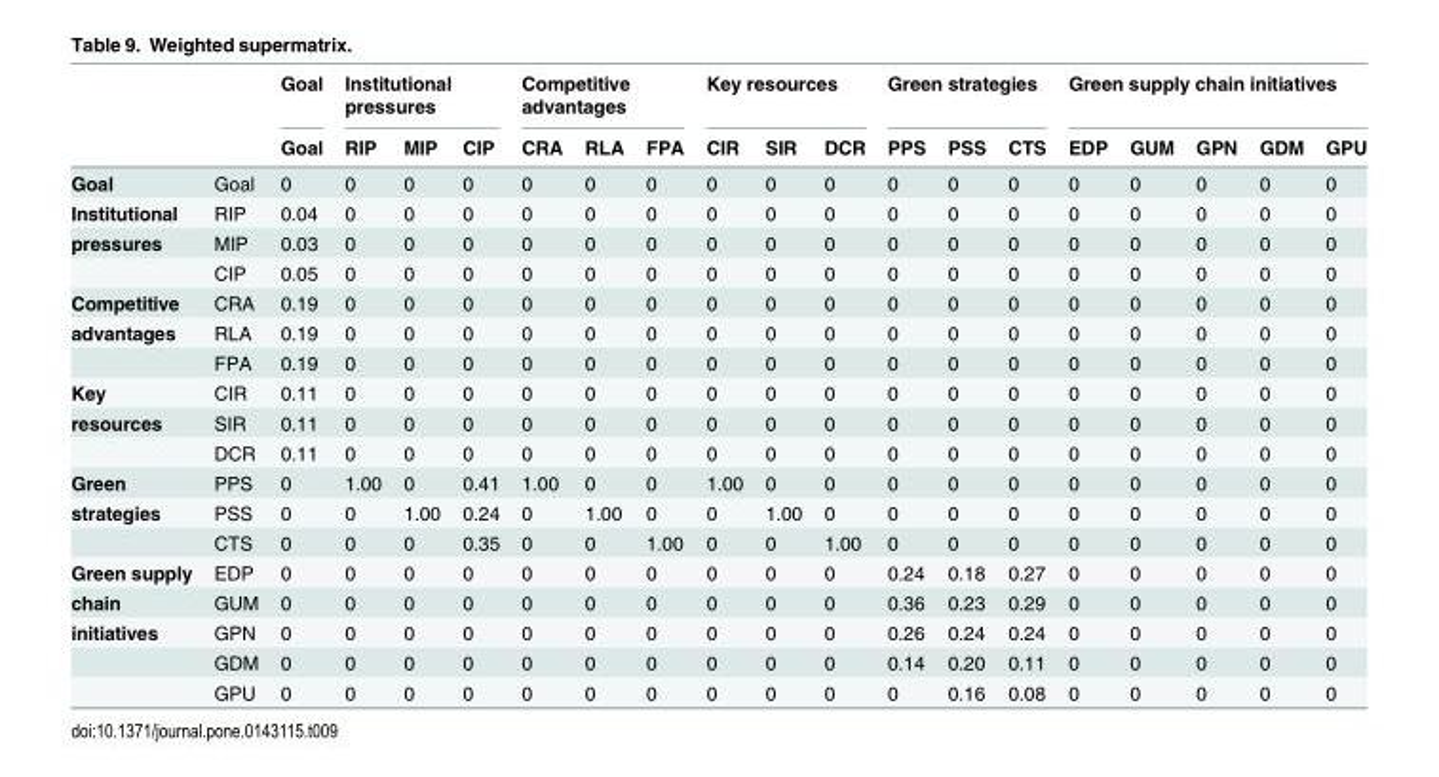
<table><thead><tr><td rowspan="2"></td><td rowspan="2"></td><td rowspan="2">Goal Goal</td><td colspan="3">Institutional pressures</td><td colspan="3">Competitive advantages</td><td colspan="3">Key resources</td><td colspan="3">Green strategies</td><td colspan="5">Green supply chain initiatives</td></tr><tr><td>RIP</td><td>MIP</td><td>CIP</td><td>CRA</td><td>RLA</td><td>FPA</td><td>CIR</td><td>SIR</td><td>DCR</td><td>PPS</td><td>PSS</td><td>CTS</td><td>EDP</td><td>GUM</td><td>GPN</td><td>GDM</td><td>GPU</td></tr></thead><tbody><tr><td>Goal</td><td>Goal</td><td>0</td><td>0</td><td>0</td><td>0</td><td>0</td><td>0</td><td>0</td><td>0</td><td>0</td><td>0</td><td>0</td><td>0</td><td>0</td><td>0</td><td>0</td><td>0</td><td>0</td><td>0</td></tr><tr><td>Institutional</td><td>RIP</td><td>0.04</td><td>0</td><td>0</td><td>0</td><td>0</td><td>0</td><td>0</td><td>0</td><td>0</td><td>0</td><td>0</td><td>0</td><td>0</td><td>0</td><td>0</td><td>0</td><td>0</td><td>0</td></tr><tr><td rowspan="2">pressures</td><td>MIP</td><td>0.03</td><td>0</td><td>0</td><td>0</td><td>0</td><td>0</td><td>0</td><td>0</td><td>0</td><td>0</td><td>0</td><td>0</td><td>0</td><td>0</td><td>0</td><td>0</td><td>0</td><td>0</td></tr><tr><td>CIP</td><td>0.05</td><td>0</td><td>0</td><td>0</td><td>0</td><td>0</td><td>0</td><td>0</td><td>0</td><td>0</td><td>0</td><td>0</td><td>0</td><td>0</td><td>0</td><td>0</td><td>0</td><td>0</td></tr><tr><td>Competitive</td><td>CRA</td><td>0.19</td><td>0</td><td>0</td><td>0</td><td>0</td><td>0</td><td>0</td><td>0</td><td>0</td><td>0</td><td>0</td><td>0</td><td>0</td><td>0</td><td>0</td><td>0</td><td>0</td><td>0</td></tr><tr><td rowspan="2">advantages</td><td>RLA</td><td>0.19</td><td>0</td><td>0</td><td>0</td><td>0</td><td>0</td><td>0</td><td>0</td><td>0</td><td>0</td><td>0</td><td>0</td><td>0</td><td>0</td><td>0</td><td>0</td><td>0</td><td>0</td></tr><tr><td>FPA</td><td>0.19</td><td>0</td><td>0</td><td>0</td><td>0</td><td>0</td><td>0</td><td>0</td><td>0</td><td>0</td><td>0</td><td>0</td><td>0</td><td>0</td><td>0</td><td>0</td><td>0</td><td>0</td></tr><tr><td>Key</td><td>CIR</td><td>0.11</td><td>0</td><td>0</td><td>0</td><td>0</td><td>0</td><td>0</td><td>0</td><td>0</td><td>0</td><td>0</td><td>0</td><td>0</td><td>0</td><td>0</td><td>0</td><td>0</td><td>0</td></tr><tr><td rowspan="2">resources</td><td>SIR</td><td>0.11</td><td>0</td><td>0</td><td>0</td><td>0</td><td>0</td><td>0</td><td>0</td><td>0</td><td>0</td><td>0</td><td>0</td><td>0</td><td>0</td><td>0</td><td>0</td><td>0</td><td>0</td></tr><tr><td>DCR</td><td>0.11</td><td>0</td><td>0</td><td>0</td><td>0</td><td>0</td><td>0</td><td>0</td><td>0</td><td>0</td><td>0</td><td>0</td><td>0</td><td>0</td><td>0</td><td>0</td><td>0</td><td>0</td></tr><tr><td>Green</td><td>PPS</td><td>0</td><td>1.00</td><td>0</td><td>0.41</td><td>1.00</td><td>0</td><td>0</td><td>1.00</td><td>0</td><td>0</td><td>0</td><td>0</td><td>0</td><td>0</td><td>0</td><td>0</td><td>0</td><td>0</td></tr><tr><td rowspan="2">strategies</td><td>PSS</td><td>0</td><td>0</td><td>1.00</td><td>0.24</td><td>0</td><td>1.00</td><td>0</td><td>0</td><td>1.00</td><td>0</td><td>0</td><td>0</td><td>0</td><td>0</td><td>0</td><td>0</td><td>0</td><td>0</td></tr><tr><td>CTS</td><td>0</td><td>0</td><td>0</td><td>0.35</td><td>0</td><td>0</td><td>1.00</td><td>0</td><td>0</td><td>1.00</td><td>0</td><td>0</td><td>0</td><td>0</td><td>0</td><td>0</td><td>0</td><td>0</td></tr><tr><td>Green supply</td><td>EDP</td><td>0</td><td>0</td><td>0</td><td>0</td><td>0</td><td>0</td><td>0</td><td>0</td><td>0</td><td>0</td><td>0.24</td><td>0.18</td><td>0.27</td><td>0</td><td>0</td><td>0</td><td>0</td><td>0</td></tr><tr><td>chain</td><td>GUM</td><td>0</td><td>0</td><td>0</td><td>0</td><td>0</td><td>0</td><td>0</td><td>0</td><td>0</td><td>0</td><td>0.36</td><td>0.23</td><td>0.29</td><td>0</td><td>0</td><td>0</td><td>0</td><td>0</td></tr><tr><td rowspan="3">initiatives</td><td>GPN</td><td>0</td><td>0</td><td>0</td><td>0</td><td>0</td><td>0</td><td>0</td><td>0</td><td>0</td><td>0</td><td>0.26</td><td>0.24</td><td>0.24</td><td>0</td><td>0</td><td>0</td><td>0</td><td>0</td></tr><tr><td>GDM</td><td>0</td><td>0</td><td>0</td><td>0</td><td>0</td><td>0</td><td>0</td><td>0</td><td>0</td><td>0</td><td>0.14</td><td>0.20</td><td>0.11</td><td>0</td><td>0</td><td>0</td><td>0</td><td>0</td></tr><tr><td>GPU</td><td>0</td><td>0</td><td>0</td><td>0</td><td>0</td><td>0</td><td>0</td><td>0</td><td>0</td><td>0</td><td>0</td><td>0.16</td><td>0.08</td><td>0</td><td>0</td><td>0</td><td>0</td><td>0</td></tr></tbody></table>